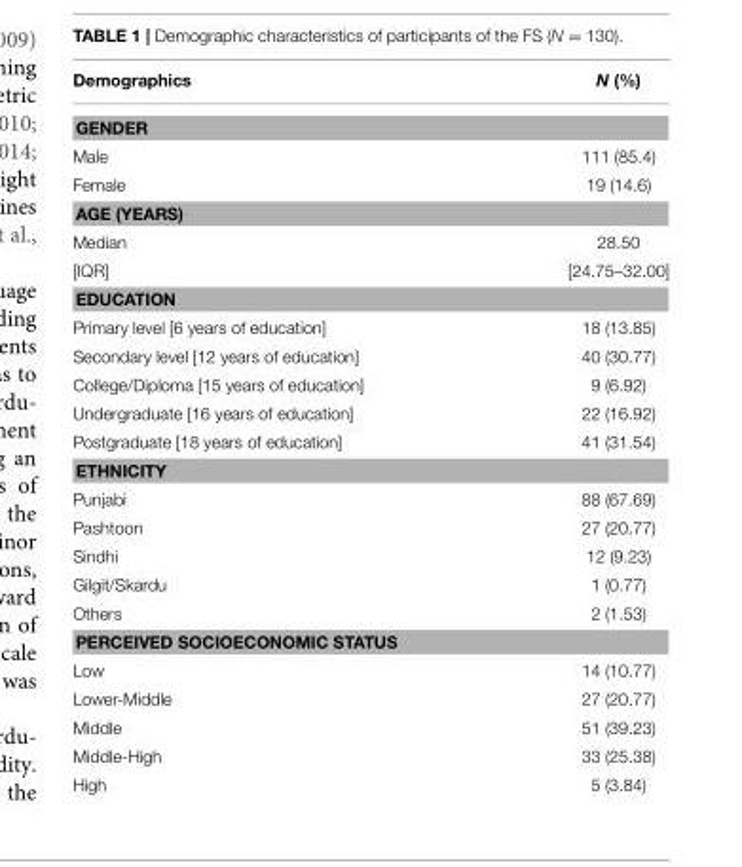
<table><thead><tr><td>Demographics</td><td>N (%)</td></tr></thead><tbody><tr><td colspan="2">GENDER</td></tr><tr><td>Male</td><td>111 (85.4)</td></tr><tr><td>Female</td><td>19 (14.6)</td></tr><tr><td colspan="2">AGE (YEARS)</td></tr><tr><td>Median</td><td>28.50</td></tr><tr><td>[IQR]</td><td>[24.75–32.00]</td></tr><tr><td colspan="2">EDUCATION</td></tr><tr><td>Primary level [6 years of education]</td><td>18 (13.85)</td></tr><tr><td>Secondary level [12 years of education]</td><td>40 (30.77)</td></tr><tr><td>College/Diploma [15 years of education]</td><td>9 (6.92)</td></tr><tr><td>Undergraduate [16 years of education]</td><td>22 (16.92)</td></tr><tr><td>Postgraduate [18 years of education]</td><td>41 (31.54)</td></tr><tr><td colspan="2">ETHNICITY</td></tr><tr><td>Punjabi</td><td>88 (67.69)</td></tr><tr><td>Pashtoon</td><td>27 (20.77)</td></tr><tr><td>Sindhi</td><td>12 (9.23)</td></tr><tr><td>Gilgit/Skardu</td><td>1 (0.77)</td></tr><tr><td>Others</td><td>2 (1.53)</td></tr><tr><td colspan="2">PERCEIVED SOCIOECONOMIC STATUS</td></tr><tr><td>Low</td><td>14 (10.77)</td></tr><tr><td>Lower-Middle</td><td>27 (20.77)</td></tr><tr><td>Middle</td><td>51 (39.23)</td></tr><tr><td>Middle-High</td><td>33 (25.38)</td></tr><tr><td>High</td><td>5 (3.84)</td></tr></tbody></table>